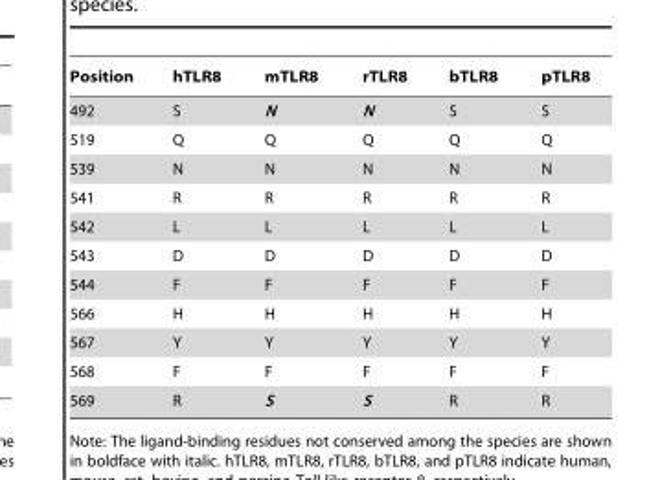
<table><thead><tr><td>Position</td><td>hTLR8</td><td>mTLR8</td><td>rTLR8</td><td>bTLR8</td><td>pTLR8</td></tr></thead><tbody><tr><td>492</td><td>S</td><td>N</td><td>N</td><td>S</td><td>S</td></tr><tr><td>519</td><td>Q</td><td>Q</td><td>Q</td><td>Q</td><td>Q</td></tr><tr><td>539</td><td>N</td><td>N</td><td>N</td><td>N</td><td>N</td></tr><tr><td>541</td><td>R</td><td>R</td><td>R</td><td>R</td><td>R</td></tr><tr><td>542</td><td>L</td><td>L</td><td>L</td><td>L</td><td>L</td></tr><tr><td>543</td><td>D</td><td>D</td><td>D</td><td>D</td><td>D</td></tr><tr><td>544</td><td>F</td><td>F</td><td>F</td><td>F</td><td>F</td></tr><tr><td>566</td><td>H</td><td>H</td><td>H</td><td>H</td><td>H</td></tr><tr><td>567</td><td>Y</td><td>Y</td><td>Y</td><td>Y</td><td>Y</td></tr><tr><td>568</td><td>F</td><td>F</td><td>F</td><td>F</td><td>F</td></tr><tr><td>569</td><td>R</td><td>S</td><td>S</td><td>R</td><td>R</td></tr></tbody></table>